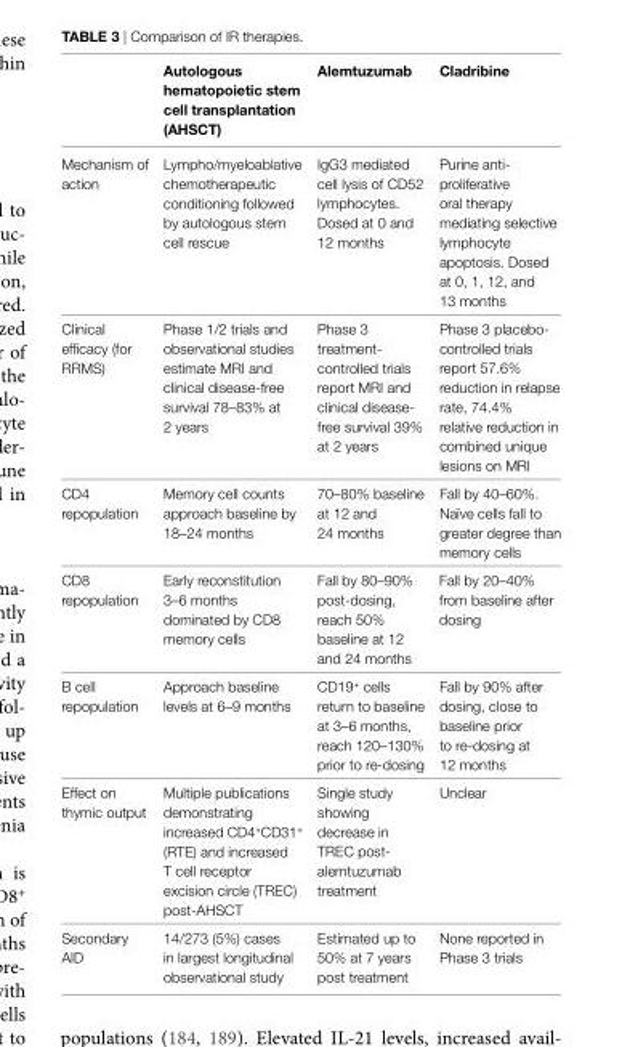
<table><thead><tr><td></td><td>Autologous hematopoietic stem cell transplantation (AHSCT)</td><td>Alemtuzumab</td><td>Cladribine</td></tr></thead><tbody><tr><td>Mechanism of action</td><td>Lympho/myeloablative chemotherapeutic conditioning followed by autologous stem cell rescue</td><td>IgG3 mediated cell lysis of CD52 lymphocytes. Dosed at 0 and 12 months</td><td>Purine anti- proliferative oral therapy mediating selective lymphocyte apoptosis. Dosed at 0, 1, 12, and 13 months</td></tr><tr><td>Clinical efficacy (for RRMS)</td><td>Phase 1/2 trials and observational studies estimate MRI and clinical disease-free survival 78–83% at 2 years</td><td>Phase 3 treatment- controlled trials report MRI and clinical disease- free survival 39% at 2 years</td><td>Phase 3 placebo- controlled trials report 57.6% reduction in relapse rate, 74.4% relative reduction in combined unique lesions on MRI</td></tr><tr><td>CD4 repopulation</td><td>Memory cell counts approach baseline by 18–24 months</td><td>70–80% baseline at 12 and 24 months</td><td>Fall by 40–60%. Naïve cells fall to greater degree than memory cells</td></tr><tr><td>CD8 repopulation</td><td>Early reconstitution 3–6 months dominated by CD8 memory cells</td><td>Fall by 80–90% post-dosing, reach 50% baseline at 12 and 24 months</td><td>Fall by 20–40% from baseline after dosing</td></tr><tr><td>B cell repopulation</td><td>Approach baseline levels at 6–9 months</td><td>CD19<sup>+</sup> cells return to baseline at 3–6 months, reach 120–130% prior to re-dosing</td><td>Fall by 90% after dosing, close to baseline prior to re-dosing at 12 months</td></tr><tr><td>Effect on thymic output</td><td>Multiple publications demonstrating increased CD4<sup>+</sup>CD31<sup>+</sup> (RTE) and increased T cell receptor excision circle (TREC) post-AHSCT</td><td>Single study showing decrease in TREC post- alemtuzumab treatment</td><td>Unclear</td></tr><tr><td>Secondary AID</td><td>14/273 (5%) cases in largest longitudinal observational study</td><td>Estimated up to 50% at 7 years post treatment</td><td>None reported in Phase 3 trials</td></tr></tbody></table>